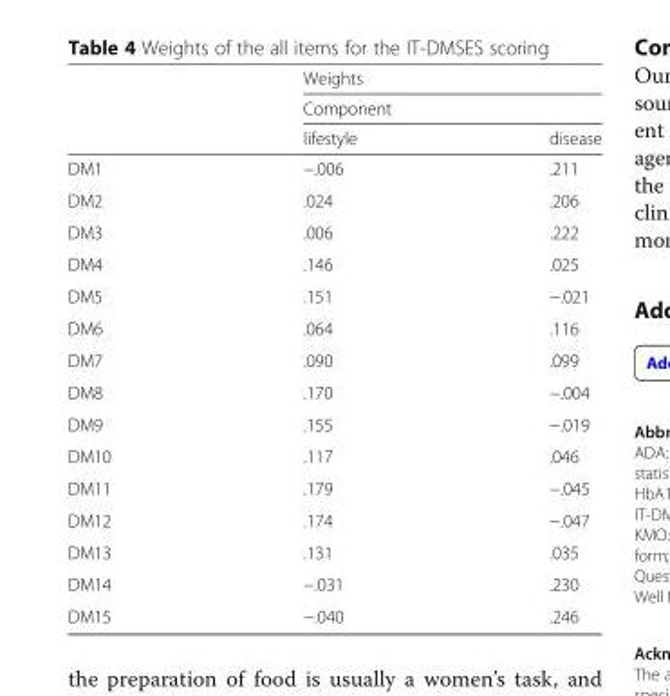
<table><thead><tr><td rowspan="3"></td><td rowspan="2" colspan="2">Weights Component</td></tr><tr></tr><tr><td>lifestyle</td><td>disease</td></tr></thead><tbody><tr><td>DM1</td><td>−.006</td><td>.211</td></tr><tr><td>DM2</td><td>.024</td><td>.206</td></tr><tr><td>DM3</td><td>.006</td><td>.222</td></tr><tr><td>DM4</td><td>.146</td><td>.025</td></tr><tr><td>DM5</td><td>.151</td><td>−.021</td></tr><tr><td>DM6</td><td>.064</td><td>.116</td></tr><tr><td>DM7</td><td>.090</td><td>.099</td></tr><tr><td>DM8</td><td>.170</td><td>−.004</td></tr><tr><td>DM9</td><td>.155</td><td>−.019</td></tr><tr><td>DM10</td><td>.117</td><td>.046</td></tr><tr><td>DM11</td><td>.179</td><td>−.045</td></tr><tr><td>DM12</td><td>.174</td><td>−.047</td></tr><tr><td>DM13</td><td>.131</td><td>.035</td></tr><tr><td>DM14</td><td>−.031</td><td>.230</td></tr><tr><td>DM15</td><td>−.040</td><td>.246</td></tr></tbody></table>